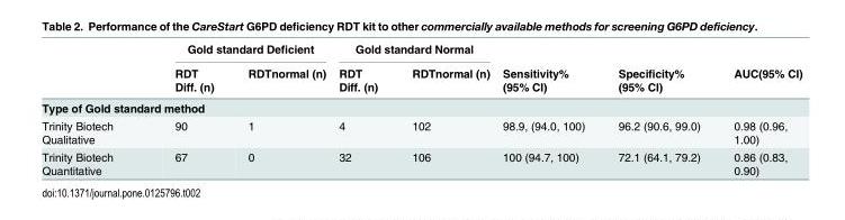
<table><thead><tr><td rowspan="2"></td><td colspan="2">Gold standard Deficient</td><td colspan="2">Gold standard Normal</td><td rowspan="2">Sensitivity% (95% CI)</td><td rowspan="2">Specificity% (95% CI)</td><td rowspan="2">AUC(95% CI)</td></tr><tr><td>RDT Diff. (n)</td><td>RDTnormal (n)</td><td>RDT Diff. (n)</td><td>RDTnormal (n)</td></tr></thead><tbody><tr><td colspan="8">Type of Gold standard method</td></tr><tr><td>Trinity Biotech Qualitative</td><td>90</td><td>1</td><td>4</td><td>102</td><td>98.9, (94.0, 100)</td><td>96.2 (90.6, 99.0)</td><td>0.98 (0.96, 1.00)</td></tr><tr><td>Trinity Biotech Quantitative</td><td>67</td><td>0</td><td>32</td><td>106</td><td>100 (94.7, 100)</td><td>72.1 (64.1, 79.2)</td><td>0.86 (0.83, 0.90)</td></tr></tbody></table>